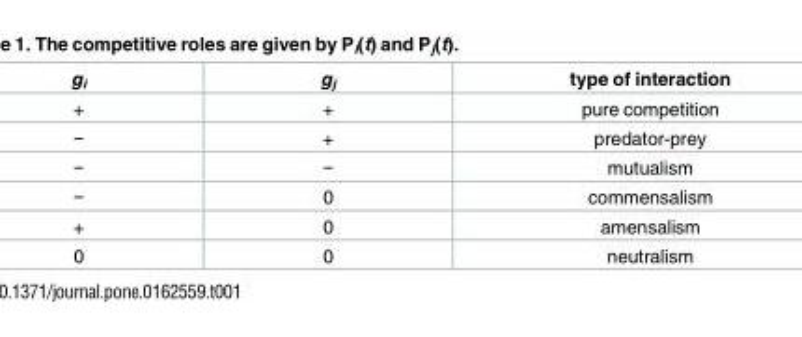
<table><thead><tr><td>g<sub>i</sub></td><td>g<sub>j</sub></td><td>type of interaction</td></tr></thead><tbody><tr><td>+</td><td>+</td><td>pure competition</td></tr><tr><td>−</td><td>+</td><td>predator-prey</td></tr><tr><td>−</td><td>−</td><td>mutualism</td></tr><tr><td>−</td><td>0</td><td>commensalism</td></tr><tr><td>+</td><td>0</td><td>amensalism</td></tr><tr><td>0</td><td>0</td><td>neutralism</td></tr></tbody></table>